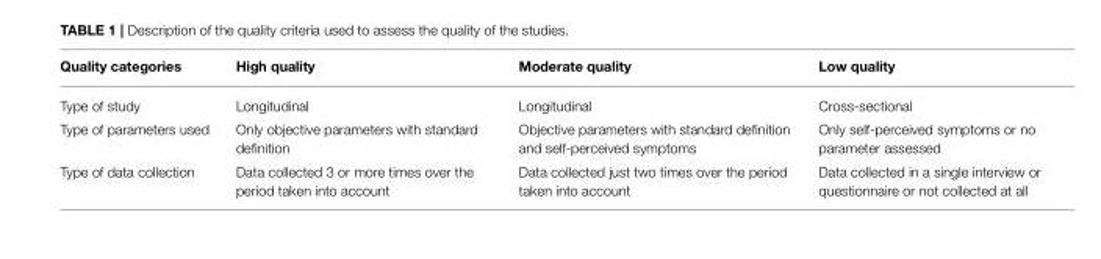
<table><thead><tr><td>Quality categories</td><td>High quality</td><td>Moderate quality</td><td>Low quality</td></tr></thead><tbody><tr><td>Type of study</td><td>Longitudinal</td><td>Longitudinal</td><td>Cross-sectional</td></tr><tr><td>Type of parameters used</td><td>Only objective parameters with standard definition</td><td>Objective parameters with standard definition and self-perceived symptoms</td><td>Only self-perceived symptoms or no parameter assessed</td></tr><tr><td>Type of data collection</td><td>Data collected 3 or more times over the period taken into account</td><td>Data collected just two times over the period taken into account</td><td>Data collected in a single interview or questionnaire or not collected at all</td></tr></tbody></table>